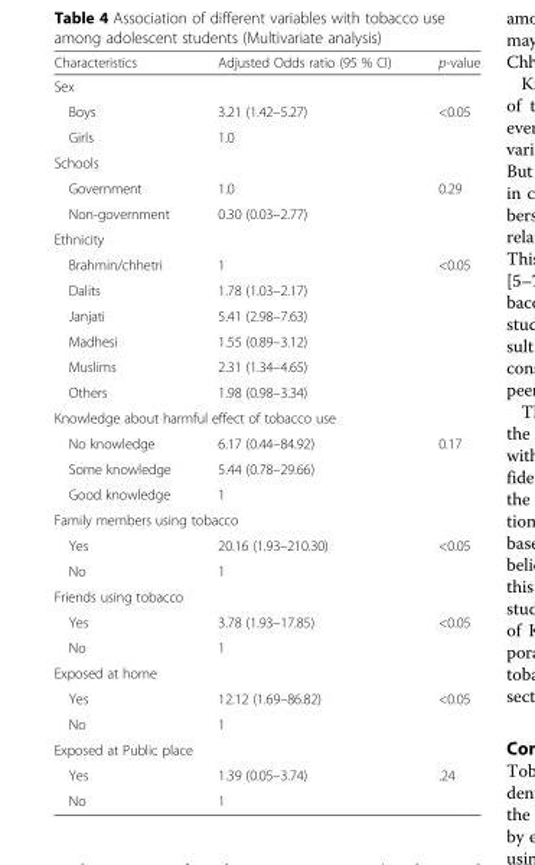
<table><thead><tr><td>Characteristics</td><td>Adjusted Odds ratio (95 % CI)</td><td>p-value</td></tr></thead><tbody><tr><td colspan="3">Sex</td></tr><tr><td>Boys</td><td>3.21 (1.42–5.27)</td><td rowspan="2">&lt;0.05</td></tr><tr><td>Girls</td><td>1.0</td></tr><tr><td colspan="3">Schools</td></tr><tr><td>Government</td><td>1.0</td><td rowspan="2">0.29</td></tr><tr><td>Non-government</td><td>0.30 (0.03–2.77)</td></tr><tr><td colspan="3">Ethnicity</td></tr><tr><td>Brahmin/chhetri</td><td>1</td><td rowspan="6">&lt;0.05</td></tr><tr><td>Dalits</td><td>1.78 (1.03–2.17)</td></tr><tr><td>Janjati</td><td>5.41 (2.98–7.63)</td></tr><tr><td>Madhesi</td><td>1.55 (0.89–3.12)</td></tr><tr><td>Muslims</td><td>2.31 (1.34–4.65)</td></tr><tr><td>Others</td><td>1.98 (0.98–3.34)</td></tr><tr><td colspan="3">Knowledge about harmful effect of tobacco use</td></tr><tr><td>No knowledge</td><td>6.17 (0.44–84.92)</td><td rowspan="3">0.17</td></tr><tr><td>Some knowledge</td><td>5.44 (0.78–29.66)</td></tr><tr><td>Good knowledge</td><td>1</td></tr><tr><td colspan="3">Family members using tobacco</td></tr><tr><td>Yes</td><td>20.16 (1.93–210.30)</td><td rowspan="2">&lt;0.05</td></tr><tr><td>No</td><td>1</td></tr><tr><td colspan="3">Friends using tobacco</td></tr><tr><td>Yes</td><td>3.78 (1.93–17.85)</td><td rowspan="2">&lt;0.05</td></tr><tr><td>No</td><td>1</td></tr><tr><td colspan="3">Exposed at home</td></tr><tr><td>Yes</td><td>12.12 (1.69–86.82)</td><td rowspan="2">&lt;0.05</td></tr><tr><td>No</td><td>1</td></tr><tr><td colspan="3">Exposed at Public place</td></tr><tr><td>Yes</td><td>1.39 (0.05–3.74)</td><td rowspan="2">.24</td></tr><tr><td>No</td><td>1</td></tr></tbody></table>